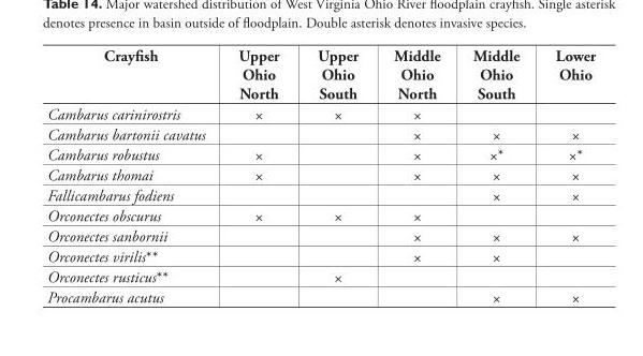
<table><thead><tr><td>Crayfi sh</td><td>Upper Ohio North</td><td>Upper Ohio South</td><td>Middle Ohio North</td><td>Middle Ohio South</td><td>Lower Ohio</td></tr></thead><tbody><tr><td>Cambarus carinirostris</td><td>×</td><td>×</td><td>×</td><td></td><td></td></tr><tr><td>Cambarus bartonii cavatus</td><td></td><td></td><td>×</td><td>×</td><td>×</td></tr><tr><td>Cambarus robustus</td><td>×</td><td></td><td>×</td><td>×*</td><td>×*</td></tr><tr><td>Cambarus thomai</td><td>×</td><td></td><td>×</td><td>×</td><td>×</td></tr><tr><td>Fallicambarus fodiens</td><td></td><td></td><td></td><td>×</td><td>×</td></tr><tr><td>Orconectes obscurus</td><td>×</td><td>×</td><td>×</td><td></td><td></td></tr><tr><td>Orconectes sanbornii</td><td></td><td></td><td>×</td><td>×</td><td>×</td></tr><tr><td>Orconectes virilis**</td><td></td><td></td><td>×</td><td>×</td><td></td></tr><tr><td>Orconectes rusticus**</td><td></td><td>×</td><td></td><td></td><td></td></tr><tr><td>Procambarus acutus</td><td></td><td></td><td></td><td>×</td><td>×</td></tr></tbody></table>